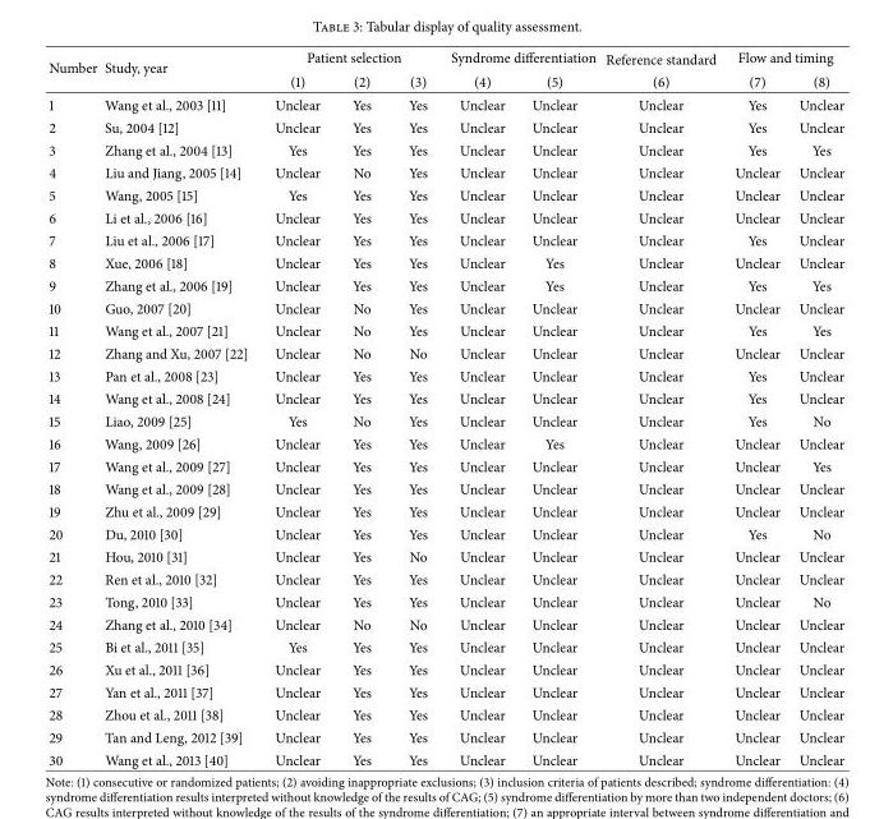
<table><thead><tr><td rowspan="2">Number</td><td rowspan="2">Study, year</td><td colspan="3">Patient selection</td><td colspan="2">Syndrome differentiation</td><td rowspan="2">Reference standard (6)</td><td colspan="2">Flow and timing</td></tr><tr><td>(1)</td><td>(2)</td><td>(3)</td><td>(4)</td><td>(5)</td><td>(7)</td><td>(8)</td></tr></thead><tbody><tr><td>1</td><td>Wang et al., 2003 [11]</td><td>Unclear</td><td>Yes</td><td>Yes</td><td>Unclear</td><td>Unclear</td><td>Unclear</td><td>Yes</td><td>Unclear</td></tr><tr><td>2</td><td>Su, 2004 [12]</td><td>Unclear</td><td>Yes</td><td>Yes</td><td>Unclear</td><td>Unclear</td><td>Unclear</td><td>Yes</td><td>Unclear</td></tr><tr><td>3</td><td>Zhang et al., 2004 [13]</td><td>Yes</td><td>Yes</td><td>Yes</td><td>Unclear</td><td>Unclear</td><td>Unclear</td><td>Yes</td><td>Yes</td></tr><tr><td>4</td><td>Liu and Jiang, 2005 [14]</td><td>Unclear</td><td>No</td><td>Yes</td><td>Unclear</td><td>Unclear</td><td>Unclear</td><td>Unclear</td><td>Unclear</td></tr><tr><td>5</td><td>Wang, 2005 [15]</td><td>Yes</td><td>Yes</td><td>Yes</td><td>Unclear</td><td>Unclear</td><td>Unclear</td><td>Unclear</td><td>Unclear</td></tr><tr><td>6</td><td>Li et al., 2006 [16]</td><td>Unclear</td><td>Yes</td><td>Yes</td><td>Unclear</td><td>Unclear</td><td>Unclear</td><td>Unclear</td><td>Unclear</td></tr><tr><td>7</td><td>Liu et al., 2006 [17]</td><td>Unclear</td><td>Yes</td><td>Yes</td><td>Unclear</td><td>Unclear</td><td>Unclear</td><td>Yes</td><td>Unclear</td></tr><tr><td>8</td><td>Xue, 2006 [18]</td><td>Unclear</td><td>Yes</td><td>Yes</td><td>Unclear</td><td>Yes</td><td>Unclear</td><td>Unclear</td><td>Unclear</td></tr><tr><td>9</td><td>Zhang et al., 2006 [19]</td><td>Unclear</td><td>Yes</td><td>Yes</td><td>Unclear</td><td>Yes</td><td>Unclear</td><td>Yes</td><td>Yes</td></tr><tr><td>10</td><td>Guo, 2007 [20]</td><td>Unclear</td><td>No</td><td>Yes</td><td>Unclear</td><td>Unclear</td><td>Unclear</td><td>Unclear</td><td>Unclear</td></tr><tr><td>11</td><td>Wang et al., 2007 [21]</td><td>Unclear</td><td>No</td><td>Yes</td><td>Unclear</td><td>Unclear</td><td>Unclear</td><td>Yes</td><td>Yes</td></tr><tr><td>12</td><td>Zhang and Xu, 2007 [22]</td><td>Unclear</td><td>No</td><td>No</td><td>Unclear</td><td>Unclear</td><td>Unclear</td><td>Unclear</td><td>Unclear</td></tr><tr><td>13</td><td>Pan et al., 2008 [23]</td><td>Unclear</td><td>Yes</td><td>Yes</td><td>Unclear</td><td>Unclear</td><td>Unclear</td><td>Yes</td><td>Unclear</td></tr><tr><td>14</td><td>Wang et al., 2008 [24]</td><td>Unclear</td><td>Yes</td><td>Yes</td><td>Unclear</td><td>Unclear</td><td>Unclear</td><td>Yes</td><td>Unclear</td></tr><tr><td>15</td><td>Liao, 2009 [25]</td><td>Yes</td><td>No</td><td>Yes</td><td>Unclear</td><td>Unclear</td><td>Unclear</td><td>Yes</td><td>No</td></tr><tr><td>16</td><td>Wang, 2009 [26]</td><td>Unclear</td><td>Yes</td><td>Yes</td><td>Unclear</td><td>Yes</td><td>Unclear</td><td>Unclear</td><td>Unclear</td></tr><tr><td>17</td><td>Wang et al., 2009 [27]</td><td>Unclear</td><td>Yes</td><td>Yes</td><td>Unclear</td><td>Unclear</td><td>Unclear</td><td>Unclear</td><td>Yes</td></tr><tr><td>18</td><td>Wang et al., 2009 [28]</td><td>Unclear</td><td>Yes</td><td>Yes</td><td>Unclear</td><td>Unclear</td><td>Unclear</td><td>Unclear</td><td>Unclear</td></tr><tr><td>19</td><td>Zhu et al., 2009 [29]</td><td>Unclear</td><td>Yes</td><td>Yes</td><td>Unclear</td><td>Unclear</td><td>Unclear</td><td>Unclear</td><td>Unclear</td></tr><tr><td>20</td><td>Du, 2010 [30]</td><td>Unclear</td><td>Yes</td><td>Yes</td><td>Unclear</td><td>Unclear</td><td>Unclear</td><td>Yes</td><td>No</td></tr><tr><td>21</td><td>Hou, 2010 [31]</td><td>Unclear</td><td>Yes</td><td>No</td><td>Unclear</td><td>Unclear</td><td>Unclear</td><td>Unclear</td><td>Unclear</td></tr><tr><td>22</td><td>Ren et al., 2010 [32]</td><td>Unclear</td><td>Yes</td><td>Yes</td><td>Unclear</td><td>Unclear</td><td>Unclear</td><td>Unclear</td><td>Unclear</td></tr><tr><td>23</td><td>Tong, 2010 [33]</td><td>Unclear</td><td>Yes</td><td>Yes</td><td>Unclear</td><td>Unclear</td><td>Unclear</td><td>Unclear</td><td>No</td></tr><tr><td>24</td><td>Zhang et al., 2010 [34]</td><td>Unclear</td><td>No</td><td>No</td><td>Unclear</td><td>Unclear</td><td>Unclear</td><td>Unclear</td><td>Unclear</td></tr><tr><td>25</td><td>Bi et al., 2011 [35]</td><td>Yes</td><td>Yes</td><td>Yes</td><td>Unclear</td><td>Unclear</td><td>Unclear</td><td>Unclear</td><td>Unclear</td></tr><tr><td>26</td><td>Xu et al., 2011 [36]</td><td>Unclear</td><td>Yes</td><td>Yes</td><td>Unclear</td><td>Unclear</td><td>Unclear</td><td>Unclear</td><td>Unclear</td></tr><tr><td>27</td><td>Yan et al., 2011 [37]</td><td>Unclear</td><td>Yes</td><td>Yes</td><td>Unclear</td><td>Unclear</td><td>Unclear</td><td>Unclear</td><td>Unclear</td></tr><tr><td>28</td><td>Zhou et al., 2011 [38]</td><td>Unclear</td><td>Yes</td><td>Yes</td><td>Unclear</td><td>Unclear</td><td>Unclear</td><td>Unclear</td><td>Unclear</td></tr><tr><td>29</td><td>Tan and Leng, 2012 [39]</td><td>Unclear</td><td>Yes</td><td>Yes</td><td>Unclear</td><td>Unclear</td><td>Unclear</td><td>Unclear</td><td>Unclear</td></tr><tr><td>30</td><td>Wang et al., 2013 [40]</td><td>Unclear</td><td>Yes</td><td>Yes</td><td>Unclear</td><td>Unclear</td><td>Unclear</td><td>Unclear</td><td>Unclear</td></tr></tbody></table>